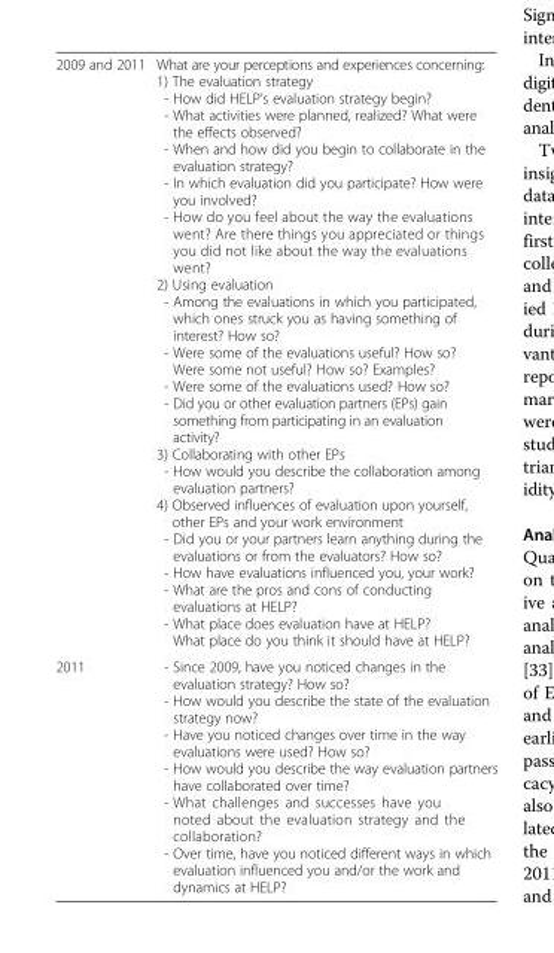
<table><tbody><tr><td>2009 and 2011</td><td>What are your perceptions and experiences concerning: 1) The evaluation strategy - How did HELP’s evaluation strategy begin? - What activities were planned, realized? What were the effects observed? - When and how did you begin to collaborate in the evaluation strategy? - In which evaluation did you participate? How were you involved? - How do you feel about the way the evaluations went? Are there things you appreciated or things you did not like about the way the evaluations went? 2) Using evaluation - Among the evaluations in which you participated, which ones struck you as having something of interest? How so? - Were some of the evaluations useful? How so? Were some not useful? How so? Examples? - Were some of the evaluations used? How so? - Did you or other evaluation partners (EPs) gain something from participating in an evaluation activity? 3) Collaborating with other EPs - How would you describe the collaboration among evaluation partners? 4) Observed influences of evaluation upon yourself, other EPs and your work environment - Did you or your partners learn anything during the evaluations or from the evaluators? How so? - How have evaluations influenced you, your work? - What are the pros and cons of conducting evaluations at HELP? - What place does evaluation have at HELP? What place do you think it should have at HELP?</td></tr><tr><td>2011</td><td>- Since 2009, have you noticed changes in the evaluation strategy? How so? - How would you describe the state of the evaluation strategy now? - Have you noticed changes over time in the way evaluations were used? How so? - How would you describe the way evaluation partners have collaborated over time? - What challenges and successes have you noted about the evaluation strategy and the collaboration? - Over time, have you noticed different ways in which evaluation influenced you and/or the work and dynamics at HELP?</td></tr></tbody></table>